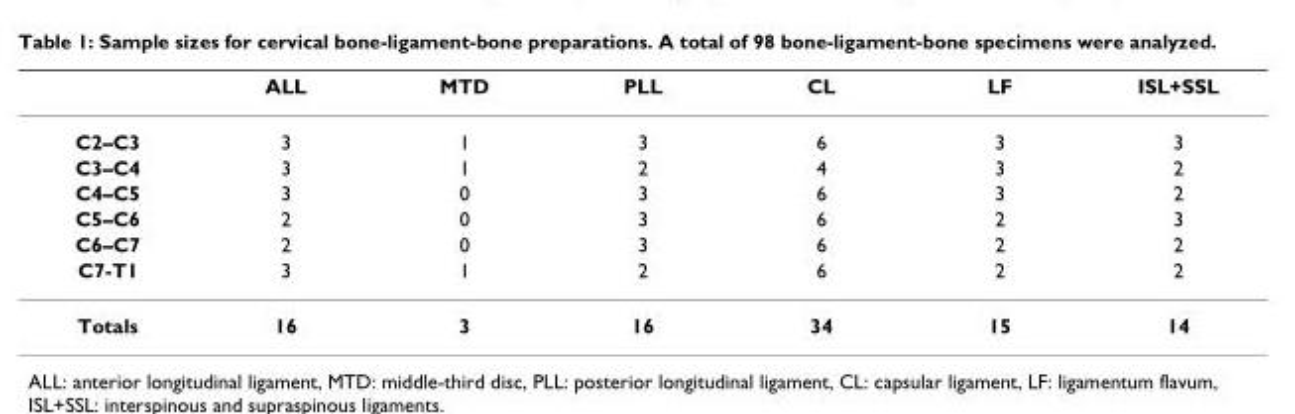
<table><thead><tr><td></td><td>ALL</td><td>MTD</td><td>PLL</td><td>CL</td><td>LF</td><td>ISL+SSL</td></tr></thead><tbody><tr><td>C2–C3</td><td>3</td><td>1</td><td>3</td><td>6</td><td>3</td><td>3</td></tr><tr><td>C3–C4</td><td>3</td><td>1</td><td>2</td><td>4</td><td>3</td><td>2</td></tr><tr><td>C4–C5</td><td>3</td><td>0</td><td>3</td><td>6</td><td>3</td><td>2</td></tr><tr><td>C5–C6</td><td>2</td><td>0</td><td>3</td><td>6</td><td>2</td><td>3</td></tr><tr><td>C6–C7</td><td>2</td><td>0</td><td>3</td><td>6</td><td>2</td><td>2</td></tr><tr><td>C7-T1</td><td>3</td><td>1</td><td>2</td><td>6</td><td>2</td><td>2</td></tr><tr><td>Totals</td><td>16</td><td>3</td><td>16</td><td>34</td><td>15</td><td>14</td></tr></tbody></table>